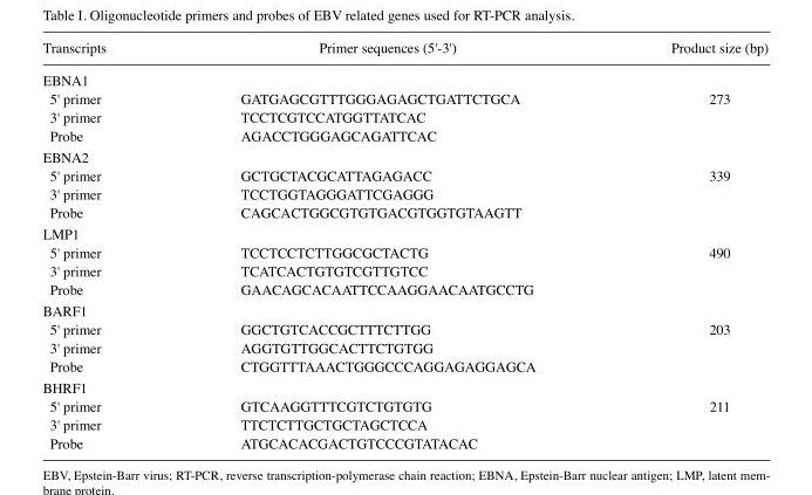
<table><thead><tr><td>Transcripts</td><td>Primer sequences (5&#x27;-3&#x27;)</td><td>Product size (bp)</td></tr></thead><tbody><tr><td colspan="3">EBNA1</td></tr><tr><td>5&#x27; primer</td><td>GATGAGCGTTTGGGAGAGCTGATTCTGCA</td><td>273</td></tr><tr><td>3&#x27; primer</td><td>TCCTCGTCCATGGTTATCAC</td><td></td></tr><tr><td>Probe</td><td>AGACCTGGGAGCAGATTCAC</td><td></td></tr><tr><td colspan="3">EBNA2</td></tr><tr><td>5&#x27; primer</td><td>GCTGCTACGCATTAGAGACC</td><td>339</td></tr><tr><td>3&#x27; primer</td><td>TCCTGGTAGGGATTCGAGGG</td><td></td></tr><tr><td>Probe</td><td>CAGCACTGGCGTGTGACGTGGTGTAAGTT</td><td></td></tr><tr><td colspan="3">LMP1</td></tr><tr><td>5&#x27; primer</td><td>TCCTCCTCTTGGCGCTACTG</td><td>490</td></tr><tr><td>3&#x27; primer</td><td>TCATCACTGTGTCGTTGTCC</td><td></td></tr><tr><td>Probe</td><td>GAACAGCACAATTCCAAGGAACAATGCCTG</td><td></td></tr><tr><td colspan="3">BARF1</td></tr><tr><td>5&#x27; primer</td><td>GGCTGTCACCGCTTTCTTGG</td><td>203</td></tr><tr><td>3&#x27; primer</td><td>AGGTGTTGGCACTTCTGTGG</td><td></td></tr><tr><td>Probe</td><td>CTGGTTTAAACTGGGCCCAGGAGAGGAGCA</td><td></td></tr><tr><td colspan="3">BHRF1</td></tr><tr><td>5&#x27; primer</td><td>GTCAAGGTTTCGTCTGTGTG</td><td>211</td></tr><tr><td>3&#x27; primer</td><td>TTCTCTTGCTGCTAGCTCCA</td><td></td></tr><tr><td>Probe</td><td>ATGCACACGACTGTCCCGTATACAC</td><td></td></tr></tbody></table>